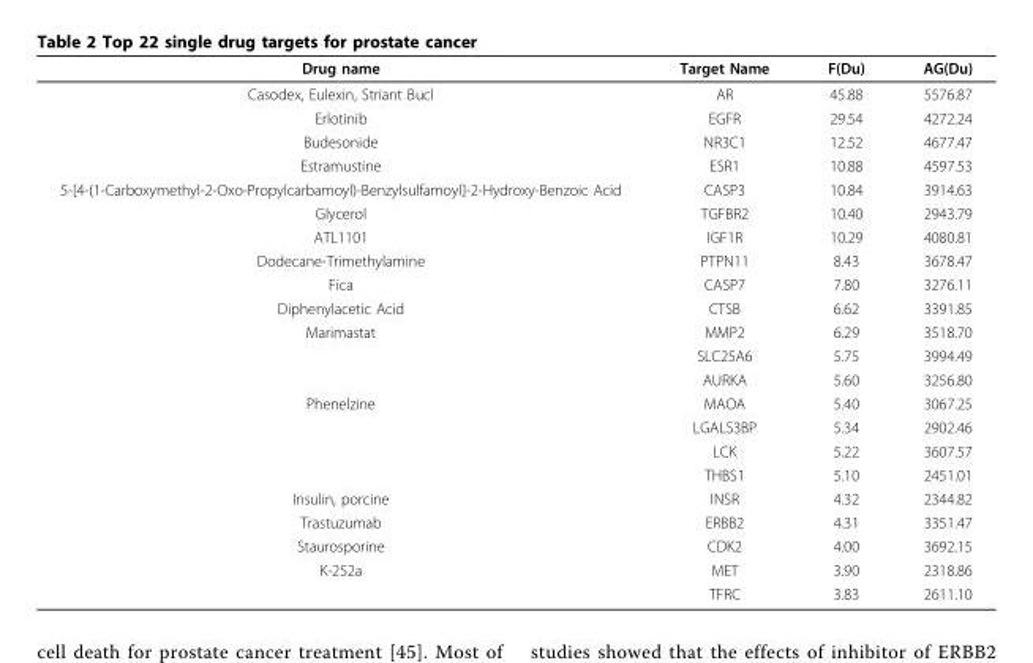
<table><thead><tr><td>Drug name</td><td>Target Name</td><td>F(Du)</td><td>AG(Du)</td></tr></thead><tbody><tr><td>Casodex, Eulexin, Striant Bucl</td><td>AR</td><td>45.88</td><td>5576.87</td></tr><tr><td>Erlotinib</td><td>EGFR</td><td>29.54</td><td>4272.24</td></tr><tr><td>Budesonide</td><td>NR3C1</td><td>12.52</td><td>4677.47</td></tr><tr><td>Estramustine</td><td>ESR1</td><td>10.88</td><td>4597.53</td></tr><tr><td>5-[4-(1-Carboxymethyl-2-Oxo-Propylcarbamoyl)-Benzylsulfamoyl]-2-Hydroxy-Benzoic Acid</td><td>CASP3</td><td>10.84</td><td>3914.63</td></tr><tr><td>Glycerol</td><td>TGFBR2</td><td>10.40</td><td>2943.79</td></tr><tr><td>ATL1101</td><td>IGF1R</td><td>10.29</td><td>4080.81</td></tr><tr><td>Dodecane-Trimethylamine</td><td>PTPN11</td><td>8.43</td><td>3678.47</td></tr><tr><td>Fica</td><td>CASP7</td><td>7.80</td><td>3276.11</td></tr><tr><td>Diphenylacetic Acid</td><td>CTSB</td><td>6.62</td><td>3391.85</td></tr><tr><td rowspan="3">Marimastat</td><td>MMP2</td><td>6.29</td><td>3518.70</td></tr><tr><td>SLC25A6</td><td>5.75</td><td>3994.49</td></tr><tr><td>AURKA</td><td>5.60</td><td>3256.80</td></tr><tr><td rowspan="4">Phenelzine</td><td>MAOA</td><td>5.40</td><td>3067.25</td></tr><tr><td>LGALS3BP</td><td>5.34</td><td>2902.46</td></tr><tr><td>LCK</td><td>5.22</td><td>3607.57</td></tr><tr><td>THBS1</td><td>5.10</td><td>2451.01</td></tr><tr><td>Insulin, porcine</td><td>INSR</td><td>4.32</td><td>2344.82</td></tr><tr><td>Trastuzumab</td><td>ERBB2</td><td>4.31</td><td>3351.47</td></tr><tr><td>Staurosporine</td><td>CDK2</td><td>4.00</td><td>3692.15</td></tr><tr><td rowspan="2">K-252a</td><td>MET</td><td>3.90</td><td>2318.86</td></tr><tr><td>TFRC</td><td>3.83</td><td>2611.10</td></tr></tbody></table>